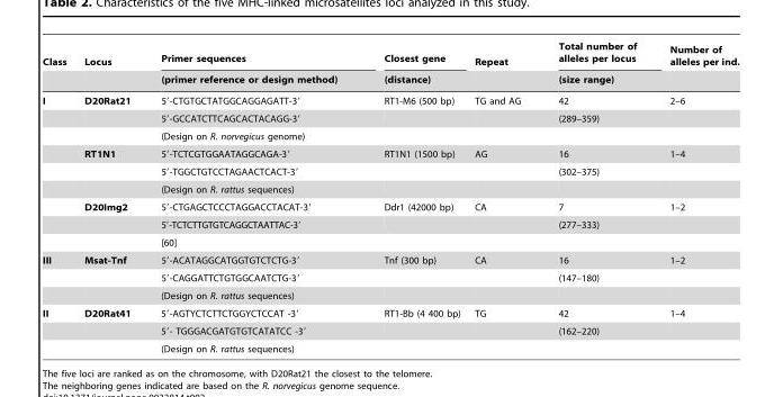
<table><thead><tr><td rowspan="2">Class</td><td rowspan="2">Locus</td><td rowspan="2">Primer sequences (primer reference or design method)</td><td rowspan="2">Closest gene (distance)</td><td rowspan="2">Repeat</td><td rowspan="2">Total number of alleles per locus (size range)</td><td rowspan="2">Number of alleles per ind.</td></tr><tr></tr></thead><tbody><tr><td rowspan="9">I</td><td>D20Rat21</td><td>5′-CTGTGCTATGGCAGGAGATT-3′</td><td>RT1-M6 (500 bp)</td><td>TG and AG</td><td>42</td><td>2–6</td></tr><tr><td></td><td>5′-GCCATCTTCAGCACTACAGG-3′</td><td></td><td></td><td>(289–359)</td><td></td></tr><tr><td></td><td>(Design on R. norvegicus genome)</td><td></td><td></td><td></td><td></td></tr><tr><td>RT1N1</td><td>5′-TCTCGTGGAATAGGCAGA-3′</td><td>RT1N1 (1500 bp)</td><td>AG</td><td>16</td><td>1–4</td></tr><tr><td></td><td>5′-TGGCTGTCCTAGAACTCACT-3′</td><td></td><td></td><td>(302–375)</td><td></td></tr><tr><td></td><td>(Design on R. rattus sequences)</td><td></td><td></td><td></td><td></td></tr><tr><td>D20Img2</td><td>5′-CTGAGCTCCCTAGGACCTACAT-3′</td><td>Ddr1 (42000 bp)</td><td>CA</td><td>7</td><td>1–2</td></tr><tr><td></td><td>5′-TCTCTTGTGTCAGGCTAATTAC-3′</td><td></td><td></td><td>(277–333)</td><td></td></tr><tr><td></td><td>[60]</td><td></td><td></td><td></td><td></td></tr><tr><td rowspan="3">III</td><td>Msat-Tnf</td><td>5′-ACATAGGCATGGTGTCTCTG-3′</td><td>Tnf (300 bp)</td><td>CA</td><td>16</td><td>1–2</td></tr><tr><td></td><td>5′-CAGGATTCTGTGGCAATCTG-3′</td><td></td><td></td><td>(147–180)</td><td></td></tr><tr><td></td><td>(Design on R. rattus sequences)</td><td></td><td></td><td></td><td></td></tr><tr><td rowspan="3">II</td><td>D20Rat41</td><td>5′-AGTYCTCTTCTGGYCTCCAT -3′</td><td>RT1-Bb (4 400 bp)</td><td>TG</td><td>42</td><td>1–4</td></tr><tr><td></td><td>5′- TGGGACGATGTGTCATATCC -3′</td><td></td><td></td><td>(162–220)</td><td></td></tr><tr><td></td><td>(Design on R. rattus sequences)</td><td></td><td></td><td></td><td></td></tr></tbody></table>